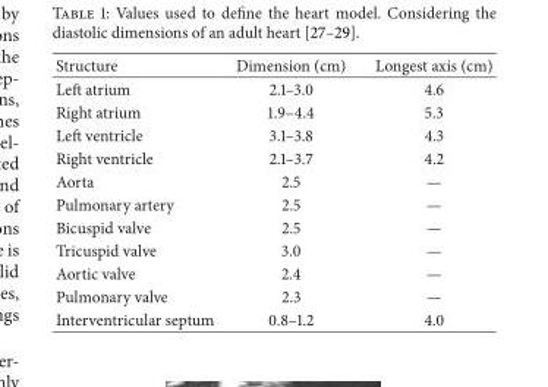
<table><thead><tr><td>Structure</td><td>Dimension (cm)</td><td>Longest axis (cm)</td></tr></thead><tbody><tr><td>Left atrium</td><td>2.1–3.0</td><td>4.6</td></tr><tr><td>Right atrium</td><td>1.9–4.4</td><td>5.3</td></tr><tr><td>Left ventricle</td><td>3.1–3.8</td><td>4.3</td></tr><tr><td>Right ventricle</td><td>2.1–3.7</td><td>4.2</td></tr><tr><td>Aorta</td><td>2.5</td><td>—</td></tr><tr><td>Pulmonary artery</td><td>2.5</td><td>—</td></tr><tr><td>Bicuspid valve</td><td>2.5</td><td>—</td></tr><tr><td>Tricuspid valve</td><td>3.0</td><td>—</td></tr><tr><td>Aortic valve</td><td>2.4</td><td>—</td></tr><tr><td>Pulmonary valve</td><td>2.3</td><td>—</td></tr><tr><td>Interventricular septum</td><td>0.8–1.2</td><td>4.0</td></tr></tbody></table>